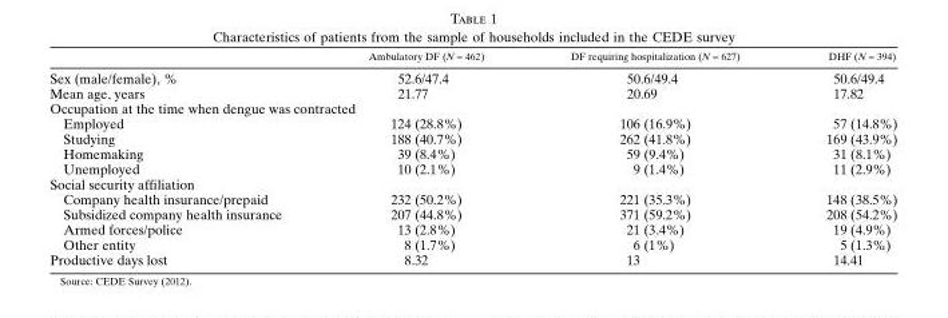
<table><thead><tr><td></td><td>Ambulatory DF (N = 462)</td><td>DF requiring hospitalization (N = 627)</td><td>DHF (N = 394)</td></tr></thead><tbody><tr><td>Sex (male/female), %</td><td>52.6/47.4</td><td>50.6/49.4</td><td>50.6/49.4</td></tr><tr><td>Mean age, years</td><td>21.77</td><td>20.69</td><td>17.82</td></tr><tr><td colspan="4">Occupation at the time when dengue was contracted</td></tr><tr><td>Employed</td><td>124 (28.8%)</td><td>106 (16.9%)</td><td>57 (14.8%)</td></tr><tr><td>Studying</td><td>188 (40.7%)</td><td>262 (41.8%)</td><td>169 (43.9%)</td></tr><tr><td>Homemaking</td><td>39 (8.4%)</td><td>59 (9.4%)</td><td>31 (8.1%)</td></tr><tr><td>Unemployed</td><td>10 (2.1%)</td><td>9 (1.4%)</td><td>11 (2.9%)</td></tr><tr><td colspan="4">Social security affiliation</td></tr><tr><td>Company health insurance/prepaid</td><td>232 (50.2%)</td><td>221 (35.3%)</td><td>148 (38.5%)</td></tr><tr><td>Subsidized company health insurance</td><td>207 (44.8%)</td><td>371 (59.2%)</td><td>208 (54.2%)</td></tr><tr><td>Armed forces/police</td><td>13 (2.8%)</td><td>21 (3.4%)</td><td>19 (4.9%)</td></tr><tr><td>Other entity</td><td>8 (1.7%)</td><td>6 (1%)</td><td>5 (1.3%)</td></tr><tr><td>Productive days lost</td><td>8.32</td><td>13</td><td>14.41</td></tr></tbody></table>